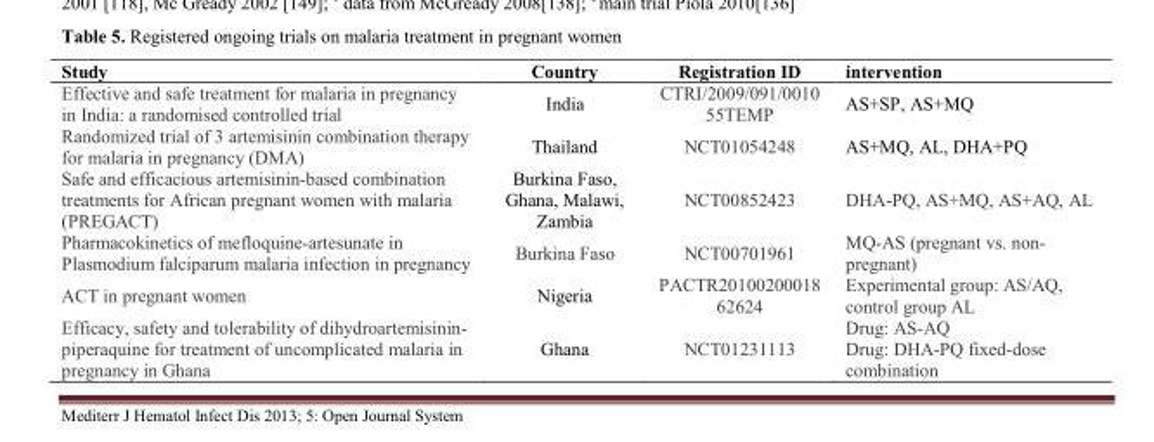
<table><thead><tr><td>Study</td><td>Country</td><td>Registration ID</td><td>intervention</td></tr></thead><tbody><tr><td>Effective and safe treatment for malaria in pregnancy in India: a randomised controlled trial</td><td>India</td><td>CTRI/2009/091/0010 55TEMP</td><td>AS+SP, AS+MQ</td></tr><tr><td>Randomized trial of 3 artemisinin combination therapy for malaria in pregnancy (DMA)</td><td>Thailand</td><td>NCT01054248</td><td>AS+MQ, AL, DHA+PQ</td></tr><tr><td>Safe and efficacious artemisinin-based combination treatments for African pregnant women with malaria (PREGACT)</td><td>Burkina Faso, Ghana, Malawi, Zambia</td><td>NCT00852423</td><td>DHA-PQ, AS+MQ, AS+AQ, AL</td></tr><tr><td>Pharmacokinetics of mefloquine-artesunate in Plasmodium falciparum malaria infection in pregnancy</td><td>Burkina Faso</td><td>NCT00701961</td><td>MQ-AS (pregnant vs. non- pregnant)</td></tr><tr><td>ACT in pregnant women</td><td>Nigeria</td><td>PACTR20100200018 62624</td><td>Experimental group: AS/AQ, control group AL</td></tr><tr><td>Efficacy, safety and tolerability of dihydroartemisinin- piperaquine for treatment of uncomplicated malaria in pregnancy in Ghana</td><td>Ghana</td><td>NCT01231113</td><td>Drug: AS-AQ Drug: DHA-PQ fixed-dose combination</td></tr></tbody></table>